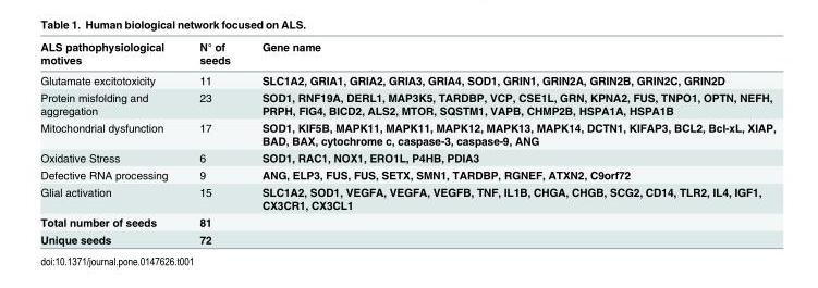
<table><thead><tr><td>ALS pathophysiological motives</td><td>N° of seeds</td><td>Gene name</td></tr></thead><tbody><tr><td>Glutamate excitotoxicity</td><td>11</td><td>SLC1A2, GRIA1, GRIA2, GRIA3, GRIA4, SOD1, GRIN1, GRIN2A, GRIN2B, GRIN2C, GRIN2D</td></tr><tr><td>Protein misfolding and aggregation</td><td>23</td><td>SOD1, RNF19A, DERL1, MAP3K5, TARDBP, VCP, CSE1L, GRN, KPNA2, FUS, TNPO1, OPTN, NEFH, PRPH, FIG4, BICD2, ALS2, MTOR, SQSTM1, VAPB, CHMP2B, HSPA1A, HSPA1B</td></tr><tr><td>Mitochondrial dysfunction</td><td>17</td><td>SOD1, KIF5B, MAPK11, MAPK11, MAPK12, MAPK13, MAPK14, DCTN1, KIFAP3, BCL2, Bcl-xL, XIAP, BAD, BAX, cytochrome c, caspase-3, caspase-9, ANG</td></tr><tr><td>Oxidative Stress</td><td>6</td><td>SOD1, RAC1, NOX1, ERO1L, P4HB, PDIA3</td></tr><tr><td>Defective RNA processing</td><td>9</td><td>ANG, ELP3, FUS, FUS, SETX, SMN1, TARDBP, RGNEF, ATXN2, C9orf72</td></tr><tr><td>Glial activation</td><td>15</td><td>SLC1A2, SOD1, VEGFA, VEGFA, VEGFB, TNF, IL1B, CHGA, CHGB, SCG2, CD14, TLR2, IL4, IGF1, CX3CR1, CX3CL1</td></tr><tr><td>Total number of seeds</td><td>81</td><td></td></tr><tr><td>Unique seeds</td><td>72</td><td></td></tr></tbody></table>